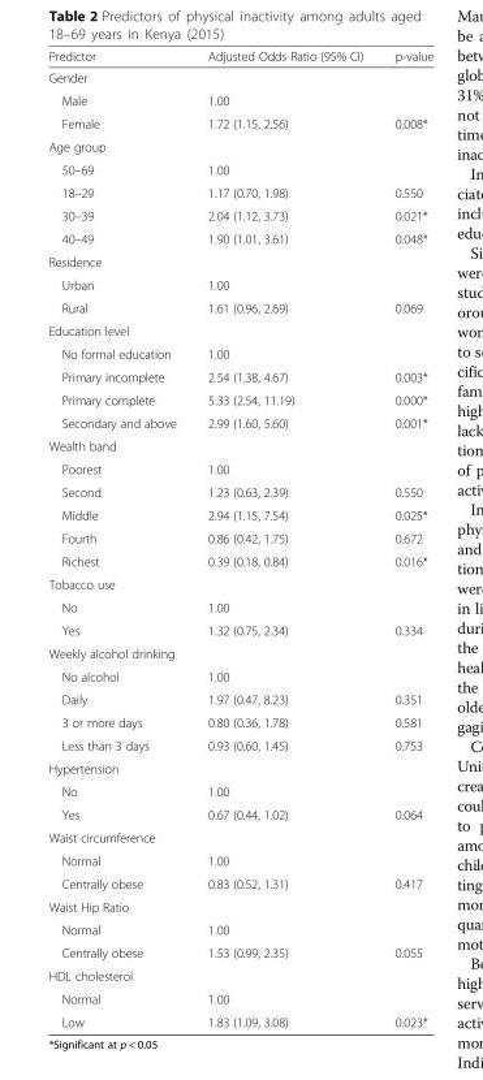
<table><thead><tr><td>Predictor</td><td>Adjusted Odds Ratio (95% CI)</td><td>p-value</td></tr></thead><tbody><tr><td colspan="3">Gender</td></tr><tr><td>Male</td><td>1.00</td><td></td></tr><tr><td>Female</td><td>1.72 (1.15, 2.56)</td><td>0.008*</td></tr><tr><td colspan="3">Age group</td></tr><tr><td>50–69</td><td>1.00</td><td></td></tr><tr><td>18–29</td><td>1.17 (0.70, 1.98)</td><td>0.550</td></tr><tr><td>30–39</td><td>2.04 (1.12, 3.73)</td><td>0.021*</td></tr><tr><td>40–49</td><td>1.90 (1.01, 3.61)</td><td>0.048*</td></tr><tr><td colspan="3">Residence</td></tr><tr><td>Urban</td><td>1.00</td><td></td></tr><tr><td>Rural</td><td>1.61 (0.96, 2.69)</td><td>0.069</td></tr><tr><td colspan="3">Education level</td></tr><tr><td>No formal education</td><td>1.00</td><td></td></tr><tr><td>Primary incomplete</td><td>2.54 (1.38, 4.67)</td><td>0.003*</td></tr><tr><td>Primary complete</td><td>5.33 (2.54, 11.19)</td><td>0.000*</td></tr><tr><td>Secondary and above</td><td>2.99 (1.60, 5.60)</td><td>0.001*</td></tr><tr><td colspan="3">Wealth band</td></tr><tr><td>Poorest</td><td>1.00</td><td></td></tr><tr><td>Second</td><td>1.23 (0.63, 2.39)</td><td>0.550</td></tr><tr><td>Middle</td><td>2.94 (1.15, 7.54)</td><td>0.025*</td></tr><tr><td>Fourth</td><td>0.86 (0.42, 1.75)</td><td>0.672</td></tr><tr><td>Richest</td><td>0.39 (0.18, 0.84)</td><td>0.016*</td></tr><tr><td colspan="3">Tobacco use</td></tr><tr><td>No</td><td>1.00</td><td></td></tr><tr><td>Yes</td><td>1.32 (0.75, 2.34)</td><td>0.334</td></tr><tr><td colspan="3">Weekly alcohol drinking</td></tr><tr><td>No alcohol</td><td>1.00</td><td></td></tr><tr><td>Daily</td><td>1.97 (0.47, 8.23)</td><td>0.351</td></tr><tr><td>3 or more days</td><td>0.80 (0.36, 1.78)</td><td>0.581</td></tr><tr><td>Less than 3 days</td><td>0.93 (0.60, 1.45)</td><td>0.753</td></tr><tr><td colspan="3">Hypertension</td></tr><tr><td>No</td><td>1.00</td><td></td></tr><tr><td>Yes</td><td>0.67 (0.44, 1.02)</td><td>0.064</td></tr><tr><td colspan="3">Waist circumference</td></tr><tr><td>Normal</td><td>1.00</td><td></td></tr><tr><td>Centrally obese</td><td>0.83 (0.52, 1.31)</td><td>0.417</td></tr><tr><td colspan="3">Waist Hip Ratio</td></tr><tr><td>Normal</td><td>1.00</td><td></td></tr><tr><td>Centrally obese</td><td>1.53 (0.99, 2.35)</td><td>0.055</td></tr><tr><td colspan="3">HDL cholesterol</td></tr><tr><td>Normal</td><td>1.00</td><td></td></tr><tr><td>Low</td><td>1.83 (1.09, 3.08)</td><td>0.023*</td></tr></tbody></table>